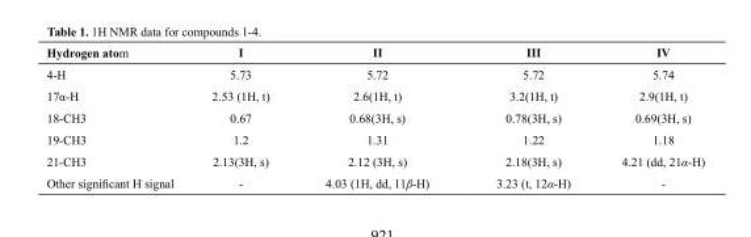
<table><thead><tr><td>Hydrogen atom</td><td>I</td><td>II</td><td>III</td><td>IV</td></tr></thead><tbody><tr><td>4-H</td><td>5.73</td><td>5.72</td><td>5.72</td><td>5.74</td></tr><tr><td>17α-H</td><td>2.53 (1H, t)</td><td>2.6(1H, t)</td><td>3.2(1H, t)</td><td>2.9(1H, t)</td></tr><tr><td>18-CH3</td><td>0.67</td><td>0.68(3H, s)</td><td>0.78(3H, s)</td><td>0.69(3H, s)</td></tr><tr><td>19-CH3</td><td>1.2</td><td>1.31</td><td>1.22</td><td>1.18</td></tr><tr><td>21-CH3</td><td>2.13(3H, s)</td><td>2.12 (3H, s)</td><td>2.18(3H, s)</td><td>4.21 (dd, 21α-H)</td></tr><tr><td>Other significant H signal</td><td>-</td><td>4.03 (1H, dd, 11β-H)</td><td>3.23 (t, 12α-H)</td><td>-</td></tr></tbody></table>